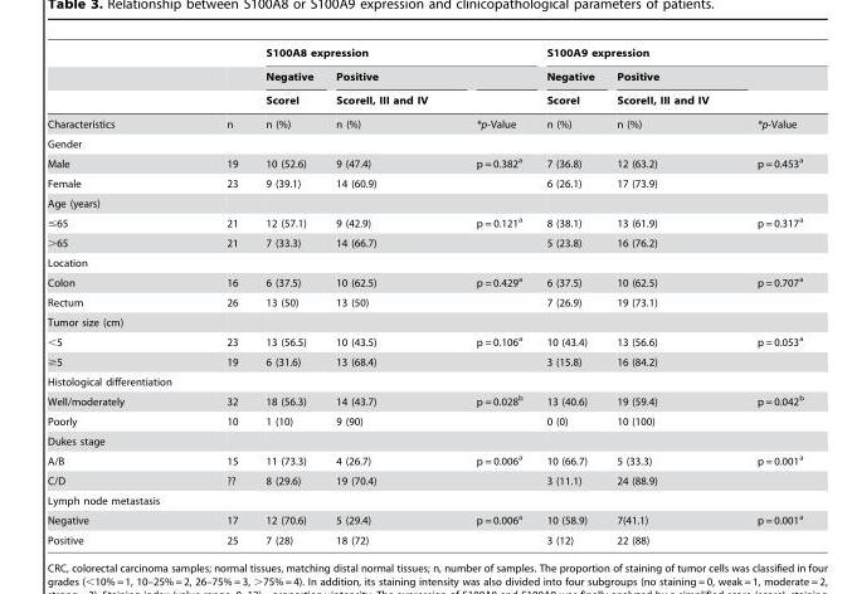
<table><thead><tr><td rowspan="3"></td><td rowspan="3"></td><td colspan="3">S100A8 expression</td><td colspan="3">S100A9 expression</td></tr><tr><td rowspan="2">Negative ScoreI</td><td rowspan="2">Positive ScoreII, III and IV</td><td rowspan="2"></td><td rowspan="2">Negative ScoreI</td><td rowspan="2">Positive ScoreII, III and IV</td><td rowspan="2"></td></tr><tr></tr></thead><tbody><tr><td>Characteristics</td><td>n</td><td>n (%)</td><td>n (%)</td><td>*p-Value</td><td>n (%)</td><td>n (%)</td><td>*p-Value</td></tr><tr><td colspan="8">Gender</td></tr><tr><td>Male</td><td>19</td><td>10 (52.6)</td><td>9 (47.4)</td><td>p = 0.382<sup>a</sup></td><td>7 (36.8)</td><td>12 (63.2)</td><td>p = 0.453<sup>a</sup></td></tr><tr><td>Female</td><td>23</td><td>9 (39.1)</td><td>14 (60.9)</td><td></td><td>6 (26.1)</td><td>17 (73.9)</td><td></td></tr><tr><td colspan="8">Age (years)</td></tr><tr><td>≤65</td><td>21</td><td>12 (57.1)</td><td>9 (42.9)</td><td>p = 0.121<sup>a</sup></td><td>8 (38.1)</td><td>13 (61.9)</td><td>p = 0.317<sup>a</sup></td></tr><tr><td>&gt;65</td><td>21</td><td>7 (33.3)</td><td>14 (66.7)</td><td></td><td>5 (23.8)</td><td>16 (76.2)</td><td></td></tr><tr><td colspan="8">Location</td></tr><tr><td>Colon</td><td>16</td><td>6 (37.5)</td><td>10 (62.5)</td><td>p = 0.429<sup>a</sup></td><td>6 (37.5)</td><td>10 (62.5)</td><td>p = 0.707<sup>a</sup></td></tr><tr><td>Rectum</td><td>26</td><td>13 (50)</td><td>13 (50)</td><td></td><td>7 (26.9)</td><td>19 (73.1)</td><td></td></tr><tr><td colspan="8">Tumor size (cm)</td></tr><tr><td>&lt;5</td><td>23</td><td>13 (56.5)</td><td>10 (43.5)</td><td>p = 0.106<sup>a</sup></td><td>10 (43.4)</td><td>13 (56.6)</td><td>p = 0.053<sup>a</sup></td></tr><tr><td>≥5</td><td>19</td><td>6 (31.6)</td><td>13 (68.4)</td><td></td><td>3 (15.8)</td><td>16 (84.2)</td><td></td></tr><tr><td colspan="8">Histological differentiation</td></tr><tr><td>Well/moderately</td><td>32</td><td>18 (56.3)</td><td>14 (43.7)</td><td>p = 0.028<sup>b</sup></td><td>13 (40.6)</td><td>19 (59.4)</td><td>p = 0.042<sup>b</sup></td></tr><tr><td>Poorly</td><td>10</td><td>1 (10)</td><td>9 (90)</td><td></td><td>0 (0)</td><td>10 (100)</td><td></td></tr><tr><td colspan="8">Dukes stage</td></tr><tr><td>A/B</td><td>15</td><td>11 (73.3)</td><td>4 (26.7)</td><td>p = 0.006<sup>a</sup></td><td>10 (66.7)</td><td>5 (33.3)</td><td>p = 0.001<sup>a</sup></td></tr><tr><td>C/D</td><td>??</td><td>8 (29.6)</td><td>19 (70.4)</td><td></td><td>3 (11.1)</td><td>24 (88.9)</td><td></td></tr><tr><td colspan="8">Lymph node metastasis</td></tr><tr><td>Negative</td><td>17</td><td>12 (70.6)</td><td>5 (29.4)</td><td>p = 0.006<sup>a</sup></td><td>10 (58.9)</td><td>7(41.1)</td><td>p = 0.001<sup>a</sup></td></tr><tr><td>Positive</td><td>25</td><td>7 (28)</td><td>18 (72)</td><td></td><td>3 (12)</td><td>22 (88)</td><td></td></tr></tbody></table>